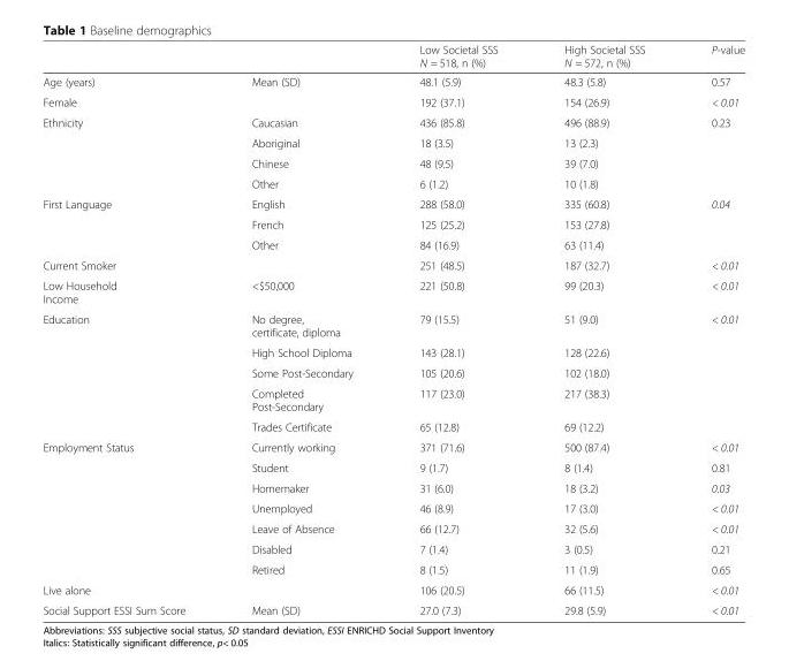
<table><thead><tr><td></td><td></td><td>Low Societal SSS N = 518, n (%)</td><td>High Societal SSS N = 572, n (%)</td><td>P-value</td></tr></thead><tbody><tr><td>Age (years)</td><td>Mean (SD)</td><td>48.1 (5.9)</td><td>48.3 (5.8)</td><td>0.57</td></tr><tr><td>Female</td><td></td><td>192 (37.1)</td><td>154 (26.9)</td><td>&lt; 0.01</td></tr><tr><td rowspan="4">Ethnicity</td><td>Caucasian</td><td>436 (85.8)</td><td>496 (88.9)</td><td rowspan="4">0.23</td></tr><tr><td>Aboriginal</td><td>18 (3.5)</td><td>13 (2.3)</td></tr><tr><td>Chinese</td><td>48 (9.5)</td><td>39 (7.0)</td></tr><tr><td>Other</td><td>6 (1.2)</td><td>10 (1.8)</td></tr><tr><td rowspan="3">First Language</td><td>English</td><td>288 (58.0)</td><td>335 (60.8)</td><td rowspan="3">0.04</td></tr><tr><td>French</td><td>125 (25.2)</td><td>153 (27.8)</td></tr><tr><td>Other</td><td>84 (16.9)</td><td>63 (11.4)</td></tr><tr><td>Current Smoker</td><td></td><td>251 (48.5)</td><td>187 (32.7)</td><td>&lt; 0.01</td></tr><tr><td>Low Household Income</td><td>&lt;$50,000</td><td>221 (50.8)</td><td>99 (20.3)</td><td>&lt; 0.01</td></tr><tr><td rowspan="5">Education</td><td>No degree, certificate, diploma</td><td>79 (15.5)</td><td>51 (9.0)</td><td rowspan="5">&lt; 0.01</td></tr><tr><td>High School Diploma</td><td>143 (28.1)</td><td>128 (22.6)</td></tr><tr><td>Some Post-Secondary</td><td>105 (20.6)</td><td>102 (18.0)</td></tr><tr><td>Completed Post-Secondary</td><td>117 (23.0)</td><td>217 (38.3)</td></tr><tr><td>Trades Certificate</td><td>65 (12.8)</td><td>69 (12.2)</td></tr><tr><td rowspan="7">Employment Status</td><td>Currently working</td><td>371 (71.6)</td><td>500 (87.4)</td><td>&lt; 0.01</td></tr><tr><td>Student</td><td>9 (1.7)</td><td>8 (1.4)</td><td>0.81</td></tr><tr><td>Homemaker</td><td>31 (6.0)</td><td>18 (3.2)</td><td>0.03</td></tr><tr><td>Unemployed</td><td>46 (8.9)</td><td>17 (3.0)</td><td>&lt; 0.01</td></tr><tr><td>Leave of Absence</td><td>66 (12.7)</td><td>32 (5.6)</td><td>&lt; 0.01</td></tr><tr><td>Disabled</td><td>7 (1.4)</td><td>3 (0.5)</td><td>0.21</td></tr><tr><td>Retired</td><td>8 (1.5)</td><td>11 (1.9)</td><td>0.65</td></tr><tr><td>Live alone</td><td></td><td>106 (20.5)</td><td>66 (11.5)</td><td>&lt; 0.01</td></tr><tr><td>Social Support ESSI Sum Score</td><td>Mean (SD)</td><td>27.0 (7.3)</td><td>29.8 (5.9)</td><td>&lt; 0.01</td></tr></tbody></table>